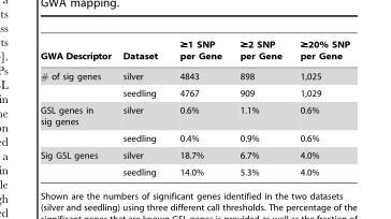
<table><thead><tr><td>GWA Descriptor</td><td>Dataset</td><td>≥1 SNP per Gene</td><td>≥2 SNP per Gene</td><td>≥20% SNP per Gene</td></tr></thead><tbody><tr><td rowspan="2"># of sig genes</td><td>silver</td><td>4843</td><td>898</td><td>1,025</td></tr><tr><td>seedling</td><td>4767</td><td>909</td><td>1,029</td></tr><tr><td rowspan="2">GSL genes in sig genes</td><td>silver</td><td>0.6%</td><td>1.1%</td><td>0.6%</td></tr><tr><td>seedling</td><td>0.4%</td><td>0.9%</td><td>0.6%</td></tr><tr><td rowspan="2">Sig GSL genes</td><td>silver</td><td>18.7%</td><td>6.7%</td><td>4.0%</td></tr><tr><td>seedling</td><td>14.0%</td><td>5.3%</td><td>4.0%</td></tr></tbody></table>